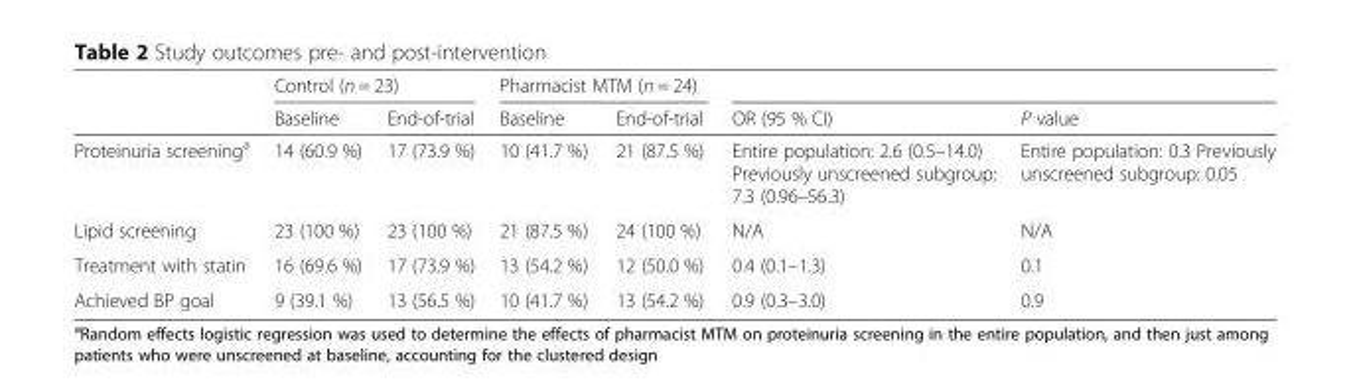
<table><thead><tr><td rowspan="2"></td><td colspan="2">Control (n = 23)</td><td colspan="2">Pharmacist MTM (n = 24)</td><td rowspan="2">OR (95 % CI)</td><td rowspan="2">P value</td></tr><tr><td>Baseline</td><td>End-of-trial</td><td>Baseline</td><td>End-of-trial</td></tr></thead><tbody><tr><td>Proteinuria screening<sup>a</sup></td><td>14 (60.9 %)</td><td>17 (73.9 %)</td><td>10 (41.7 %)</td><td>21 (87.5 %)</td><td>Entire population: 2.6 (0.5–14.0) Previously unscreened subgroup: 7.3 (0.96–56.3)</td><td>Entire population: 0.3 Previously unscreened subgroup: 0.05</td></tr><tr><td>Lipid screening</td><td>23 (100 %)</td><td>23 (100 %)</td><td>21 (87.5 %)</td><td>24 (100 %)</td><td>N/A</td><td>N/A</td></tr><tr><td>Treatment with statin</td><td>16 (69.6 %)</td><td>17 (73.9 %)</td><td>13 (54.2 %)</td><td>12 (50.0 %)</td><td>0.4 (0.1–1.3)</td><td>0.1</td></tr><tr><td>Achieved BP goal</td><td>9 (39.1 %)</td><td>13 (56.5 %)</td><td>10 (41.7 %)</td><td>13 (54.2 %)</td><td>0.9 (0.3–3.0)</td><td>0.9</td></tr></tbody></table>